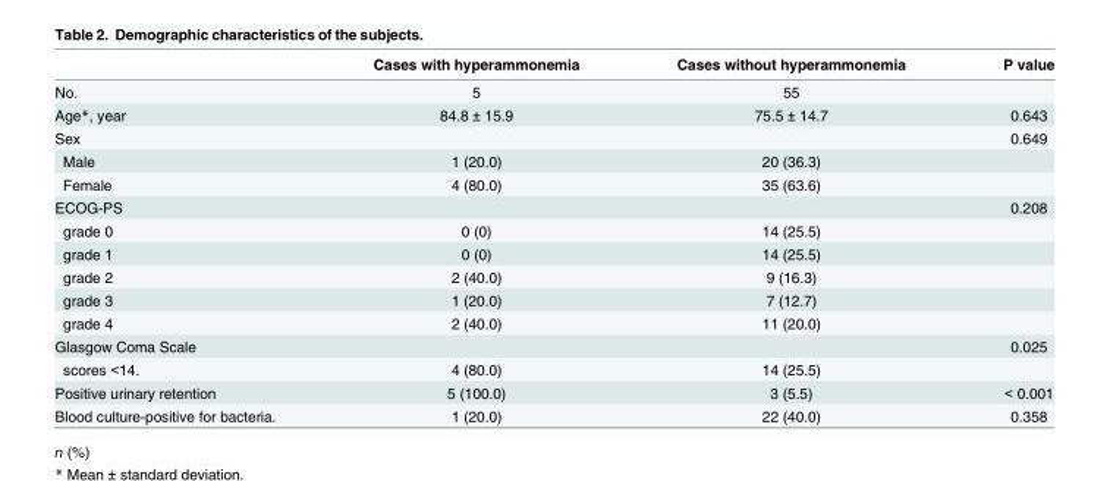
<table><thead><tr><td></td><td>Cases with hyperammonemia</td><td>Cases without hyperammonemia</td><td>P value</td></tr></thead><tbody><tr><td>No.</td><td>5</td><td>55</td><td></td></tr><tr><td>Age*, year</td><td>84.8 ± 15.9</td><td>75.5 ± 14.7</td><td>0.643</td></tr><tr><td>Sex</td><td></td><td></td><td>0.649</td></tr><tr><td>Male</td><td>1 (20.0)</td><td>20 (36.3)</td><td></td></tr><tr><td>Female</td><td>4 (80.0)</td><td>35 (63.6)</td><td></td></tr><tr><td>ECOG-PS</td><td></td><td></td><td>0.208</td></tr><tr><td>grade 0</td><td>0 (0)</td><td>14 (25.5)</td><td></td></tr><tr><td>grade 1</td><td>0 (0)</td><td>14 (25.5)</td><td></td></tr><tr><td>grade 2</td><td>2 (40.0)</td><td>9 (16.3)</td><td></td></tr><tr><td>grade 3</td><td>1 (20.0)</td><td>7 (12.7)</td><td></td></tr><tr><td>grade 4</td><td>2 (40.0)</td><td>11 (20.0)</td><td></td></tr><tr><td>Glasgow Coma Scale</td><td></td><td></td><td>0.025</td></tr><tr><td>scores &lt;14.</td><td>4 (80.0)</td><td>14 (25.5)</td><td></td></tr><tr><td>Positive urinary retention</td><td>5 (100.0)</td><td>3 (5.5)</td><td>&lt; 0.001</td></tr><tr><td>Blood culture-positive for bacteria.</td><td>1 (20.0)</td><td>22 (40.0)</td><td>0.358</td></tr></tbody></table>